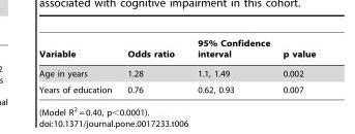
<table><thead><tr><td>Variable</td><td>Odds ratio</td><td>95% Confidence interval</td><td>p value</td></tr></thead><tbody><tr><td>Age in years</td><td>1.28</td><td>1.1, 1.49</td><td>0.002</td></tr><tr><td>Years of education</td><td>0.76</td><td>0.62, 0.93</td><td>0.007</td></tr></tbody></table>